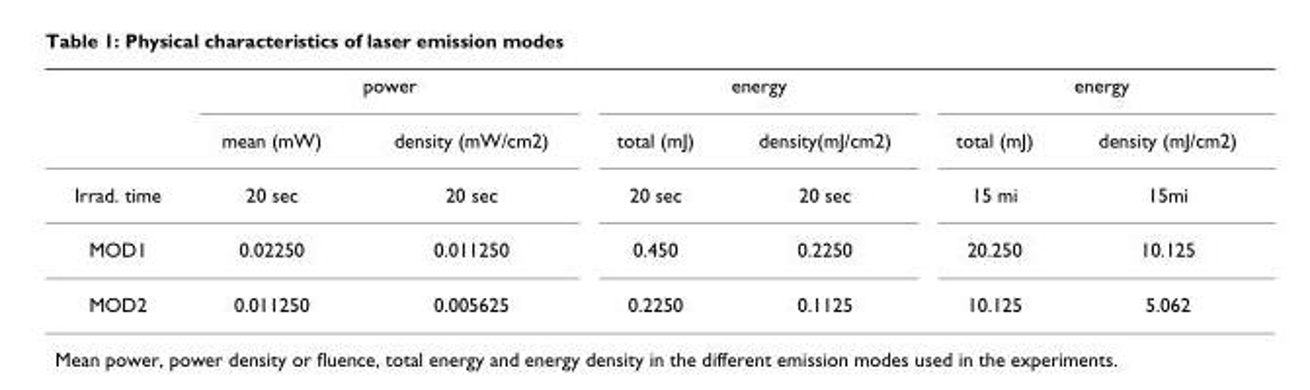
<table><thead><tr><td rowspan="2"></td><td colspan="2">power</td><td colspan="2">energy</td><td colspan="2">energy</td></tr><tr><td>mean (mW)</td><td>density (mW/cm2)</td><td>total (mJ)</td><td>density(mJ/cm2)</td><td>total (mJ)</td><td>density (mJ/cm2)</td></tr></thead><tbody><tr><td>Irrad. time</td><td>20 sec</td><td>20 sec</td><td>20 sec</td><td>20 sec</td><td>15 mi</td><td>15mi</td></tr><tr><td>MOD1</td><td>0.02250</td><td>0.011250</td><td>0.450</td><td>0.2250</td><td>20.250</td><td>10.125</td></tr><tr><td>MOD2</td><td>0.011250</td><td>0.005625</td><td>0.2250</td><td>0.1125</td><td>10.125</td><td>5.062</td></tr></tbody></table>